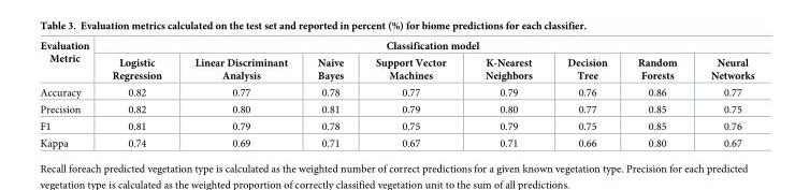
<table><thead><tr><td rowspan="2">Evaluation Metric</td><td colspan="8">Classification model</td></tr><tr><td>Logistic Regression</td><td>Linear Discriminant Analysis</td><td>Naive Bayes</td><td>Support Vector Machines</td><td>K-Nearest Neighbors</td><td>Decision Tree</td><td>Random Forests</td><td>Neural Networks</td></tr></thead><tbody><tr><td>Accuracy</td><td>0.82</td><td>0.77</td><td>0.78</td><td>0.77</td><td>0.79</td><td>0.76</td><td>0.86</td><td>0.77</td></tr><tr><td>Precision</td><td>0.82</td><td>0.80</td><td>0.81</td><td>0.79</td><td>0.80</td><td>0.77</td><td>0.85</td><td>0.75</td></tr><tr><td>F1</td><td>0.81</td><td>0.79</td><td>0.78</td><td>0.75</td><td>0.79</td><td>0.75</td><td>0.85</td><td>0.76</td></tr><tr><td>Kappa</td><td>0.74</td><td>0.69</td><td>0.71</td><td>0.67</td><td>0.71</td><td>0.66</td><td>0.80</td><td>0.67</td></tr></tbody></table>